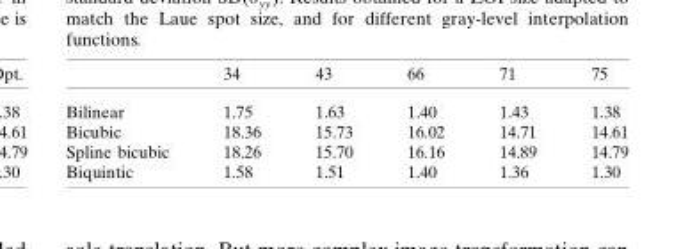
<table><thead><tr><td></td><td>34</td><td>43</td><td>66</td><td>71</td><td>75</td></tr></thead><tbody><tr><td>Bilinear</td><td>1.75</td><td>1.63</td><td>1.40</td><td>1.43</td><td>1.38</td></tr><tr><td>Bicubic</td><td>18.36</td><td>15.73</td><td>16.02</td><td>14.71</td><td>14.61</td></tr><tr><td>Spline bicubic</td><td>18.26</td><td>15.70</td><td>16.16</td><td>14.89</td><td>14.79</td></tr><tr><td>Biquintic</td><td>1.58</td><td>1.51</td><td>1.40</td><td>1.36</td><td>1.30</td></tr></tbody></table>